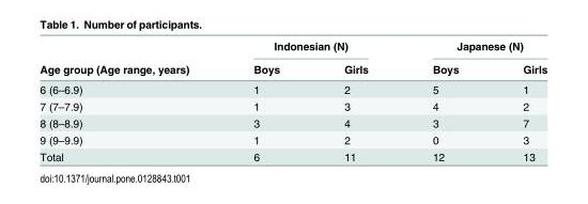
<table><thead><tr><td rowspan="2">Age group (Age range, years)</td><td colspan="2">Indonesian (N)</td><td colspan="2">Japanese (N)</td></tr><tr><td>Boys</td><td>Girls</td><td>Boys</td><td>Girls</td></tr></thead><tbody><tr><td>6 (6–6.9)</td><td>1</td><td>2</td><td>5</td><td>1</td></tr><tr><td>7 (7–7.9)</td><td>1</td><td>3</td><td>4</td><td>2</td></tr><tr><td>8 (8–8.9)</td><td>3</td><td>4</td><td>3</td><td>7</td></tr><tr><td>9 (9–9.9)</td><td>1</td><td>2</td><td>0</td><td>3</td></tr><tr><td>Total</td><td>6</td><td>11</td><td>12</td><td>13</td></tr></tbody></table>